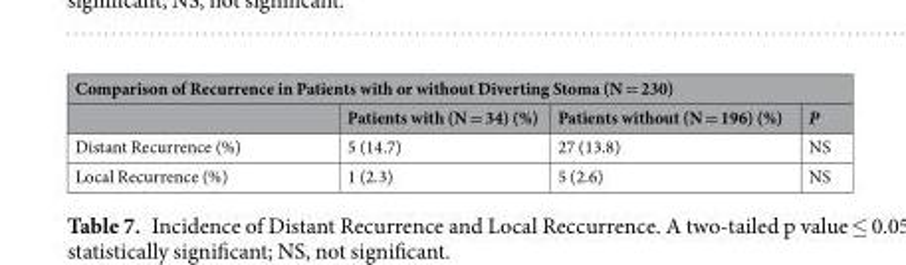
<table><thead><tr><td colspan="4">Comparison of Recurrence in Patients with or without Diverting Stoma (N = 230)</td></tr><tr><td></td><td>Patients with (N = 34) (%)</td><td>Patients without (N = 196) (%)</td><td>P</td></tr></thead><tbody><tr><td>Distant Recurrence (%)</td><td>5 (14.7)</td><td>27 (13.8)</td><td>NS</td></tr><tr><td>Local Recurrence (%)</td><td>1 (2.3)</td><td>5 (2.6)</td><td>NS</td></tr></tbody></table>